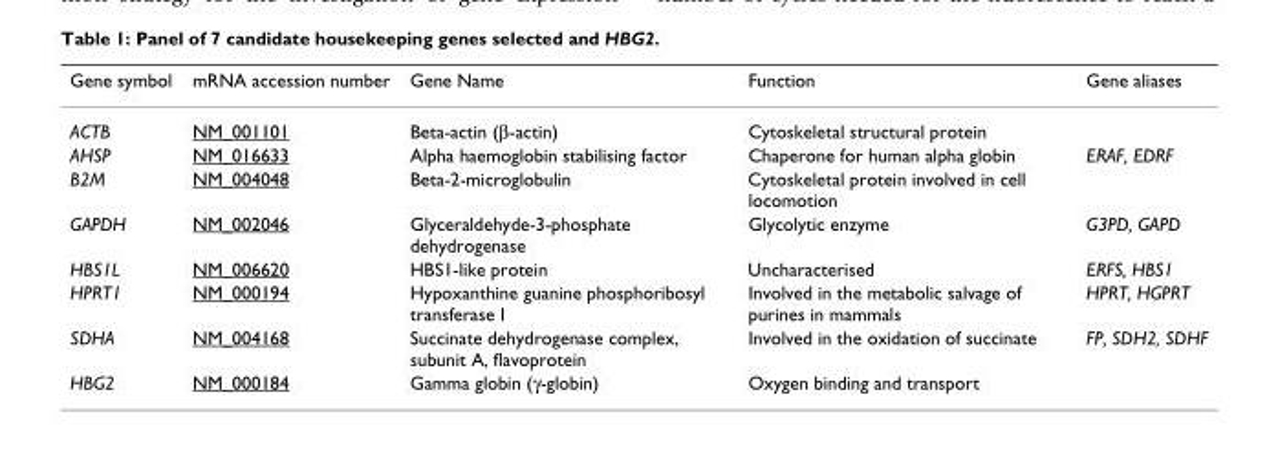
<table><thead><tr><td>Gene symbol</td><td>mRNA accession number</td><td>Gene Name</td><td>Function</td><td>Gene aliases</td></tr></thead><tbody><tr><td>ACTB</td><td>NM_001101</td><td>Beta-actin (β-actin)</td><td>Cytoskeletal structural protein</td><td></td></tr><tr><td>AHSP</td><td>NM_016633</td><td>Alpha haemoglobin stabilising factor</td><td>Chaperone for human alpha globin</td><td>ERAF, EDRF</td></tr><tr><td>B2M</td><td>NM_004048</td><td>Beta-2-microglobulin</td><td>Cytoskeletal protein involved in cell locomotion</td><td></td></tr><tr><td>GAPDH</td><td>NM_002046</td><td>Glyceraldehyde-3-phosphate dehydrogenase</td><td>Glycolytic enzyme</td><td>G3PD, GAPD</td></tr><tr><td>HBS1L</td><td>NM_006620</td><td>HBS1-like protein</td><td>Uncharacterised</td><td>ERFS, HBS1</td></tr><tr><td>HPRT1</td><td>NM_000194</td><td>Hypoxanthine guanine phosphoribosyl transferase I</td><td>Involved in the metabolic salvage of purines in mammals</td><td>HPRT, HGPRT</td></tr><tr><td>SDHA</td><td>NM_004168</td><td>Succinate dehydrogenase complex, subunit A, flavoprotein</td><td>Involved in the oxidation of succinate</td><td>FP, SDH2, SDHF</td></tr><tr><td>HBG2</td><td>NM_000184</td><td>Gamma globin (γ-globin)</td><td>Oxygen binding and transport</td><td></td></tr></tbody></table>